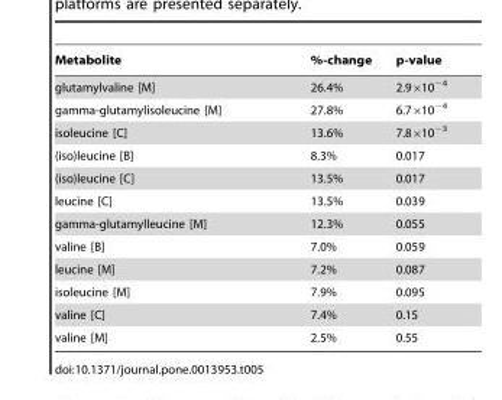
<table><thead><tr><td>Metabolite</td><td>%-change</td><td>p-value</td></tr></thead><tbody><tr><td>glutamylvaline [M]</td><td>26.4%</td><td>2.9×10<sup>−4</sup></td></tr><tr><td>gamma-glutamylisoleucine [M]</td><td>27.8%</td><td>6.7×10<sup>−4</sup></td></tr><tr><td>isoleucine [C]</td><td>13.6%</td><td>7.8×10<sup>−3</sup></td></tr><tr><td>(iso)leucine [B]</td><td>8.3%</td><td>0.017</td></tr><tr><td>(iso)leucine [C]</td><td>13.5%</td><td>0.017</td></tr><tr><td>leucine [C]</td><td>13.5%</td><td>0.039</td></tr><tr><td>gamma-glutamylleucine [M]</td><td>12.3%</td><td>0.055</td></tr><tr><td>valine [B]</td><td>7.0%</td><td>0.059</td></tr><tr><td>leucine [M]</td><td>7.2%</td><td>0.087</td></tr><tr><td>isoleucine [M]</td><td>7.9%</td><td>0.095</td></tr><tr><td>valine [C]</td><td>7.4%</td><td>0.15</td></tr><tr><td>valine [M]</td><td>2.5%</td><td>0.55</td></tr></tbody></table>